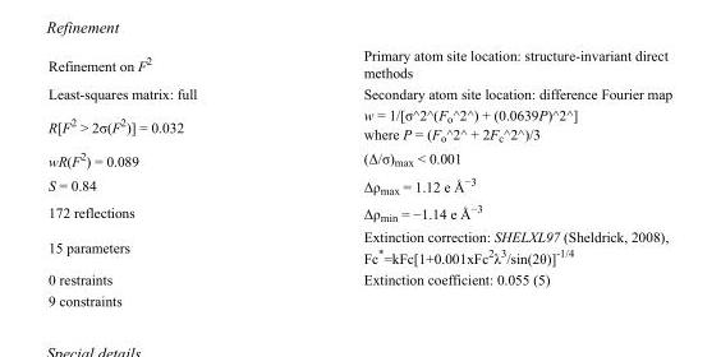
<table><tbody><tr><td>Refinement on F<sup>2</sup></td><td>Primary atom site location: structure-invariant direct methods</td></tr><tr><td>Least-squares matrix: full</td><td>Secondary atom site location: difference Fourier map</td></tr><tr><td>R[F<sup>2</sup> &gt; 2σ(F<sup>2</sup>)] = 0.032</td><td>w = 1/[σ^2^(F<sub>o</sub>^2^) + (0.0639P)^2^] where P = (F<sub>o</sub>^2^ + 2F<sub>c</sub>^2^)/3</td></tr><tr><td>wR(F<sup>2</sup>) = 0.089</td><td>(Δ/σ)<sub>max</sub> &lt; 0.001</td></tr><tr><td>S = 0.84</td><td>Δρ<sub>max</sub> = 1.12 e Å<sup>−3</sup></td></tr><tr><td>172 reflections</td><td>Δρ<sub>min</sub> = −1.14 e Å<sup>−3</sup></td></tr><tr><td>15 parameters</td><td>Extinction correction: SHELXL97 (Sheldrick, 2008), Fc*=kFc[1+0.001xFc<sup>2</sup>λ<sup>3</sup>/sin(2θ)]<sup>-1/4</sup></td></tr><tr><td>0 restraints</td><td>Extinction coefficient: 0.055 (5)</td></tr><tr><td>9 constraints</td><td></td></tr></tbody></table>